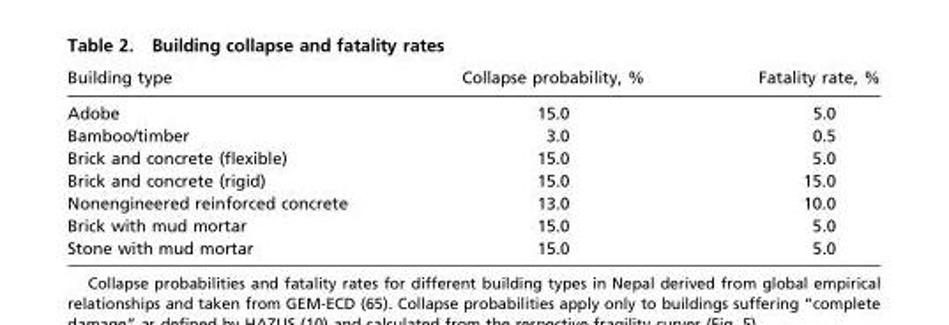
<table><thead><tr><td>Building type</td><td>Collapse probability, %</td><td>Fatality rate, %</td></tr></thead><tbody><tr><td>Adobe</td><td>15.0</td><td>5.0</td></tr><tr><td>Bamboo/timber</td><td>3.0</td><td>0.5</td></tr><tr><td>Brick and concrete (flexible)</td><td>15.0</td><td>5.0</td></tr><tr><td>Brick and concrete (rigid)</td><td>15.0</td><td>15.0</td></tr><tr><td>Nonengineered reinforced concrete</td><td>13.0</td><td>10.0</td></tr><tr><td>Brick with mud mortar</td><td>15.0</td><td>5.0</td></tr><tr><td>Stone with mud mortar</td><td>15.0</td><td>5.0</td></tr></tbody></table>